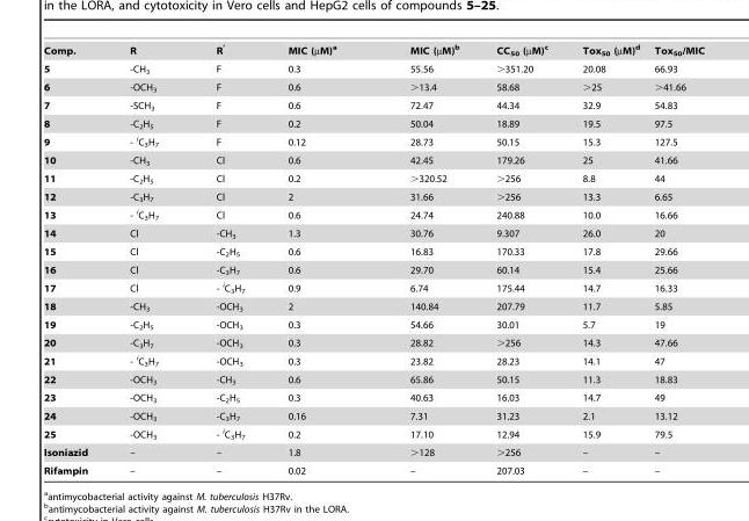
<table><tbody><tr><td>Comp.</td><td>R</td><td>R<sup>’</sup></td><td>MIC (µM)a</td><td>MIC (µM)b</td><td>CC<sub>50</sub> (µM)c</td><td>Tox<sub>50</sub> (µM)d</td><td>Tox<sub>50</sub>/MIC</td></tr><tr><td>5</td><td>-CH<sub>3</sub></td><td>F</td><td>0.3</td><td>55.56</td><td>&gt;351.20</td><td>20.08</td><td>66.93</td></tr><tr><td>6</td><td>-OCH<sub>3</sub></td><td>F</td><td>0.6</td><td>&gt;13.4</td><td>58.68</td><td>&gt;25</td><td>&gt;41.66</td></tr><tr><td>7</td><td>-SCH<sub>3</sub></td><td>F</td><td>0.6</td><td>72.47</td><td>44.34</td><td>32.9</td><td>54.83</td></tr><tr><td>8</td><td>-C<sub>2</sub>H<sub>5</sub></td><td>F</td><td>0.2</td><td>50.04</td><td>18.89</td><td>19.5</td><td>97.5</td></tr><tr><td>9</td><td>- <sup>i</sup>C<sub>3</sub>H<sub>7</sub></td><td>F</td><td>0.12</td><td>28.73</td><td>50.15</td><td>15.3</td><td>127.5</td></tr><tr><td>10</td><td>-CH<sub>3</sub></td><td>Cl</td><td>0.6</td><td>42.45</td><td>179.26</td><td>25</td><td>41.66</td></tr><tr><td>11</td><td>-C<sub>2</sub>H<sub>5</sub></td><td>Cl</td><td>0.2</td><td>&gt;320.52</td><td>&gt;256</td><td>8.8</td><td>44</td></tr><tr><td>12</td><td>-C<sub>3</sub>H<sub>7</sub></td><td>Cl</td><td>2</td><td>31.66</td><td>&gt;256</td><td>13.3</td><td>6.65</td></tr><tr><td>13</td><td>- <sup>i</sup>C<sub>3</sub>H<sub>7</sub></td><td>Cl</td><td>0.6</td><td>24.74</td><td>240.88</td><td>10.0</td><td>16.66</td></tr><tr><td>14</td><td>Cl</td><td>-CH<sub>3</sub></td><td>1.3</td><td>30.76</td><td>9.307</td><td>26.0</td><td>20</td></tr><tr><td>15</td><td>Cl</td><td>-C<sub>2</sub>H<sub>5</sub></td><td>0.6</td><td>16.83</td><td>170.33</td><td>17.8</td><td>29.66</td></tr><tr><td>16</td><td>Cl</td><td>-C<sub>3</sub>H<sub>7</sub></td><td>0.6</td><td>29.70</td><td>60.14</td><td>15.4</td><td>25.66</td></tr><tr><td>17</td><td>Cl</td><td>- <sup>i</sup>C<sub>3</sub>H<sub>7</sub></td><td>0.9</td><td>6.74</td><td>175.44</td><td>14.7</td><td>16.33</td></tr><tr><td>18</td><td>-CH<sub>3</sub></td><td>-OCH<sub>3</sub></td><td>2</td><td>140.84</td><td>207.79</td><td>11.7</td><td>5.85</td></tr><tr><td>19</td><td>-C<sub>2</sub>H<sub>5</sub></td><td>-OCH<sub>3</sub></td><td>0.3</td><td>54.66</td><td>30.01</td><td>5.7</td><td>19</td></tr><tr><td>20</td><td>-C<sub>3</sub>H<sub>7</sub></td><td>-OCH<sub>3</sub></td><td>0.3</td><td>28.82</td><td>&gt;256</td><td>14.3</td><td>47.66</td></tr><tr><td>21</td><td>- <sup>i</sup>C<sub>3</sub>H<sub>7</sub></td><td>-OCH<sub>3</sub></td><td>0.3</td><td>23.82</td><td>28.23</td><td>14.1</td><td>47</td></tr><tr><td>22</td><td>-OCH<sub>3</sub></td><td>-CH<sub>3</sub></td><td>0.6</td><td>65.86</td><td>50.15</td><td>11.3</td><td>18.83</td></tr><tr><td>23</td><td>-OCH<sub>3</sub></td><td>-C<sub>2</sub>H<sub>5</sub></td><td>0.3</td><td>40.63</td><td>16.03</td><td>14.7</td><td>49</td></tr><tr><td>24</td><td>-OCH<sub>3</sub></td><td>-C<sub>3</sub>H<sub>7</sub></td><td>0.16</td><td>7.31</td><td>31.23</td><td>2.1</td><td>13.12</td></tr><tr><td>25</td><td>-OCH<sub>3</sub></td><td>- <sup>i</sup>C<sub>3</sub>H<sub>7</sub></td><td>0.2</td><td>17.10</td><td>12.94</td><td>15.9</td><td>79.5</td></tr><tr><td>Isoniazid</td><td>–</td><td>–</td><td>1.8</td><td>&gt;128</td><td>&gt;256</td><td>–</td><td>–</td></tr><tr><td>Rifampin</td><td>–</td><td>–</td><td>0.02</td><td>–</td><td>207.03</td><td>–</td><td>–</td></tr></tbody></table>